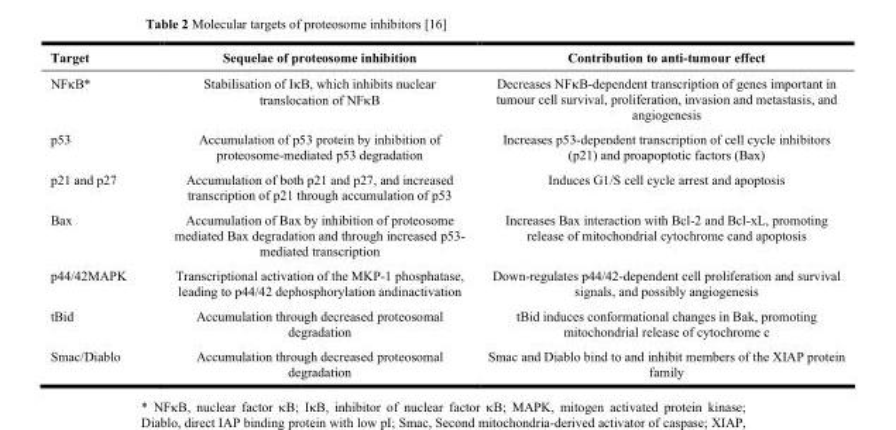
<table><thead><tr><td>Target</td><td>Sequelae of proteosome inhibition</td><td>Contribution to anti-tumour effect</td></tr></thead><tbody><tr><td>NFκB*</td><td>Stabilisation of IκB, which inhibits nuclear translocation of NFκB</td><td>Decreases NFκB-dependent transcription of genes important in tumour cell survival, proliferation, invasion and metastasis, and angiogenesis</td></tr><tr><td>p53</td><td>Accumulation of p53 protein by inhibition of proteosome-mediated p53 degradation</td><td>Increases p53-dependent transcription of cell cycle inhibitors (p21) and proapoptotic factors (Bax)</td></tr><tr><td>p21 and p27</td><td>Accumulation of both p21 and p27, and increased transcription of p21 through accumulation of p53</td><td>Induces G1/S cell cycle arrest and apoptosis</td></tr><tr><td>Bax</td><td>Accumulation of Bax by inhibition of proteosome mediated Bax degradation and through increased p53- mediated transcription</td><td>Increases Bax interaction with Bcl-2 and Bcl-xL, promoting release of mitochondrial cytochrome cand apoptosis</td></tr><tr><td>p44/42MAPK</td><td>Transcriptional activation of the MKP-1 phosphatase, leading to p44/42 dephosphorylation andinactivation</td><td>Down-regulates p44/42-dependent cell proliferation and survival signals, and possibly angiogenesis</td></tr><tr><td>tBid</td><td>Accumulation through decreased proteosomal degradation</td><td>tBid induces conformational changes in Bak, promoting mitochondrial release of cytochrome c</td></tr><tr><td>Smac/Diablo</td><td>Accumulation through decreased proteosomal degradation</td><td>Smac and Diablo bind to and inhibit members of the XIAP protein family</td></tr></tbody></table>